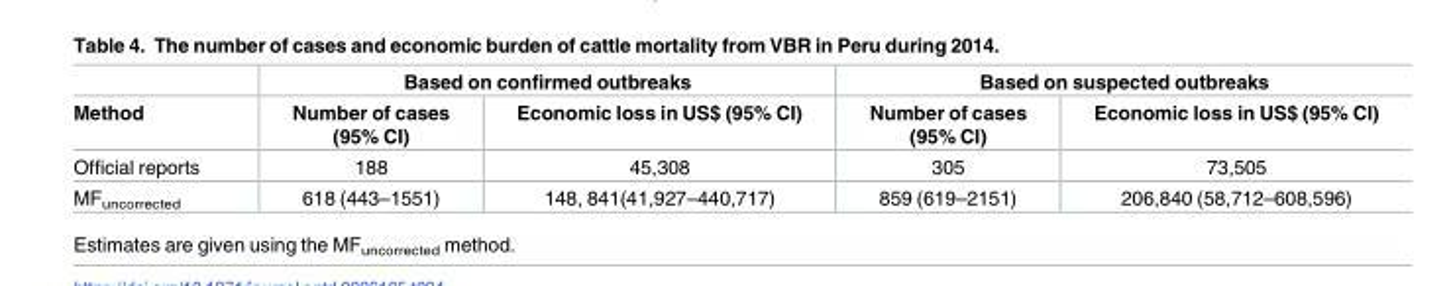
<table><thead><tr><td rowspan="2">Method</td><td colspan="2">Based on confirmed outbreaks</td><td colspan="2">Based on suspected outbreaks</td></tr><tr><td>Number of cases (95% CI)</td><td>Economic loss in US$ (95% CI)</td><td>Number of cases (95% CI)</td><td>Economic loss in US$ (95% CI)</td></tr></thead><tbody><tr><td>Official reports</td><td>188</td><td>45,308</td><td>305</td><td>73,505</td></tr><tr><td>MF<sub>uncorrected</sub></td><td>618 (443–1551)</td><td>148, 841(41,927–440,717)</td><td>859 (619–2151)</td><td>206,840 (58,712–608,596)</td></tr></tbody></table>